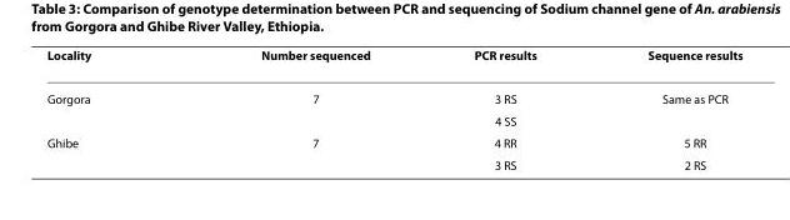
<table><thead><tr><td>Locality</td><td>Number sequenced</td><td>PCR results</td><td>Sequence results</td></tr></thead><tbody><tr><td rowspan="2">Gorgora</td><td>7</td><td>3 RS</td><td>Same as PCR</td></tr><tr><td></td><td>4 SS</td><td></td></tr><tr><td rowspan="2">Ghibe</td><td>7</td><td>4 RR</td><td>5 RR</td></tr><tr><td></td><td>3 RS</td><td>2 RS</td></tr></tbody></table>